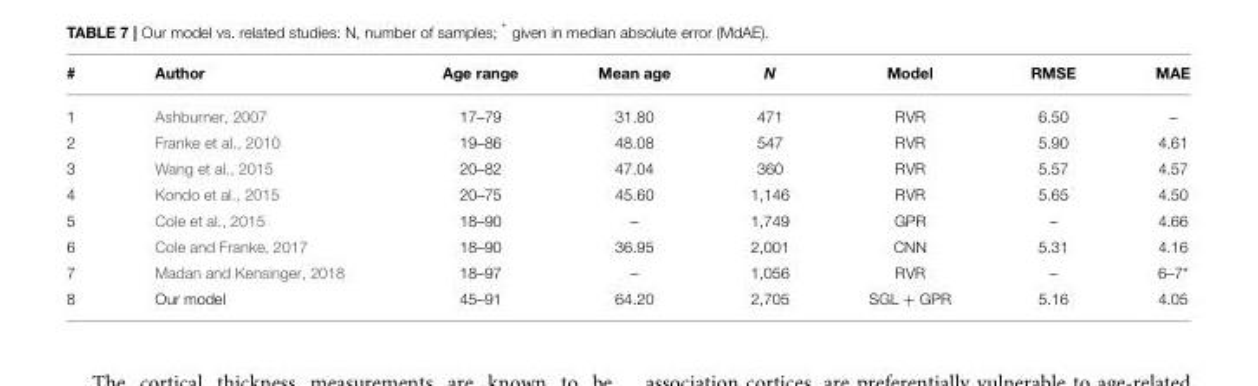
<table><thead><tr><td>#</td><td>Author</td><td>Age range</td><td>Mean age</td><td>N</td><td>Model</td><td>RMSE</td><td>MAE</td></tr></thead><tbody><tr><td>1</td><td>Ashburner, 2007</td><td>17–79</td><td>31.80</td><td>471</td><td>RVR</td><td>6.50</td><td>–</td></tr><tr><td>2</td><td>Franke et al., 2010</td><td>19–86</td><td>48.08</td><td>547</td><td>RVR</td><td>5.90</td><td>4.61</td></tr><tr><td>3</td><td>Wang et al., 2015</td><td>20–82</td><td>47.04</td><td>360</td><td>RVR</td><td>5.57</td><td>4.57</td></tr><tr><td>4</td><td>Kondo et al., 2015</td><td>20–75</td><td>45.60</td><td>1,146</td><td>RVR</td><td>5.65</td><td>4.50</td></tr><tr><td>5</td><td>Cole et al., 2015</td><td>18–90</td><td>–</td><td>1,749</td><td>GPR</td><td>–</td><td>4.66</td></tr><tr><td>6</td><td>Cole and Franke, 2017</td><td>18–90</td><td>36.95</td><td>2,001</td><td>CNN</td><td>5.31</td><td>4.16</td></tr><tr><td>7</td><td>Madan and Kensinger, 2018</td><td>18–97</td><td>–</td><td>1,056</td><td>RVR</td><td>–</td><td>6–7*</td></tr><tr><td>8</td><td>Our model</td><td>45–91</td><td>64.20</td><td>2,705</td><td>SGL + GPR</td><td>5.16</td><td>4.05</td></tr></tbody></table>